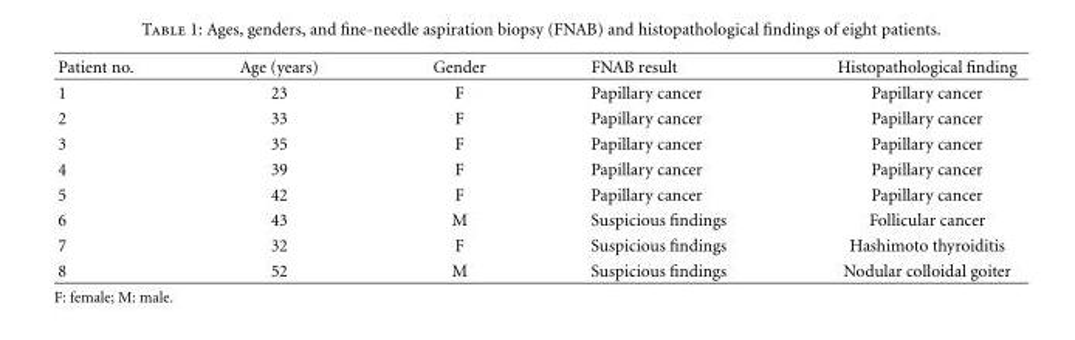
<table><thead><tr><td>Patient no.</td><td>Age (years)</td><td>Gender</td><td>FNAB result</td><td>Histopathological finding</td></tr></thead><tbody><tr><td>1</td><td>23</td><td>F</td><td>Papillary cancer</td><td>Papillary cancer</td></tr><tr><td>2</td><td>33</td><td>F</td><td>Papillary cancer</td><td>Papillary cancer</td></tr><tr><td>3</td><td>35</td><td>F</td><td>Papillary cancer</td><td>Papillary cancer</td></tr><tr><td>4</td><td>39</td><td>F</td><td>Papillary cancer</td><td>Papillary cancer</td></tr><tr><td>5</td><td>42</td><td>F</td><td>Papillary cancer</td><td>Papillary cancer</td></tr><tr><td>6</td><td>43</td><td>M</td><td>Suspicious findings</td><td>Follicular cancer</td></tr><tr><td>7</td><td>32</td><td>F</td><td>Suspicious findings</td><td>Hashimoto thyroiditis</td></tr><tr><td>8</td><td>52</td><td>M</td><td>Suspicious findings</td><td>Nodular colloidal goiter</td></tr></tbody></table>